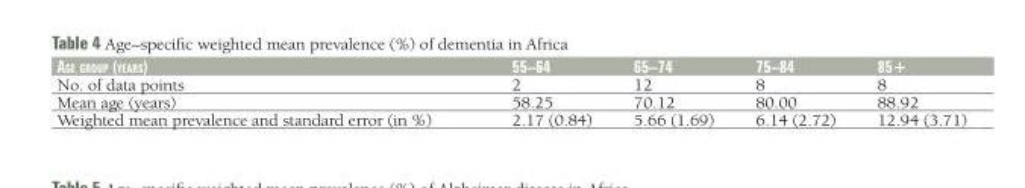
<table><thead><tr><td>age group (years)</td><td>55–64</td><td>65–74</td><td>75–84</td><td>85+</td></tr></thead><tbody><tr><td>No. of data points</td><td>2</td><td>12</td><td>8</td><td>8</td></tr><tr><td>Mean age (years)</td><td>58.25</td><td>70.12</td><td>80.00</td><td>88.92</td></tr><tr><td>Weighted mean prevalence and standard error (in %)</td><td>2.17 (0.84)</td><td>5.66 (1.69)</td><td>6.14 (2.72)</td><td>12.94 (3.71)</td></tr></tbody></table>